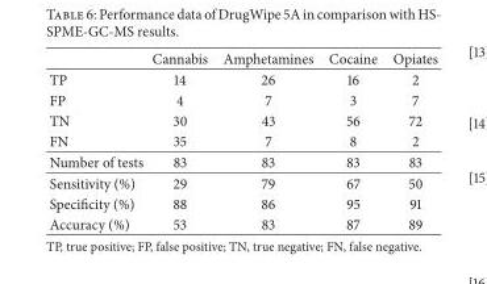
<table><thead><tr><td></td><td>Cannabis</td><td>Amphetamines</td><td>Cocaine</td><td>Opiates</td></tr></thead><tbody><tr><td>TP</td><td>14</td><td>26</td><td>16</td><td>2</td></tr><tr><td>FP</td><td>4</td><td>7</td><td>3</td><td>7</td></tr><tr><td>TN</td><td>30</td><td>43</td><td>56</td><td>72</td></tr><tr><td>FN</td><td>35</td><td>7</td><td>8</td><td>2</td></tr><tr><td>Number of tests</td><td>83</td><td>83</td><td>83</td><td>83</td></tr><tr><td>Sensitivity (%)</td><td>29</td><td>79</td><td>67</td><td>50</td></tr><tr><td>Specificity (%)</td><td>88</td><td>86</td><td>95</td><td>91</td></tr><tr><td>Accuracy (%)</td><td>53</td><td>83</td><td>87</td><td>89</td></tr></tbody></table>